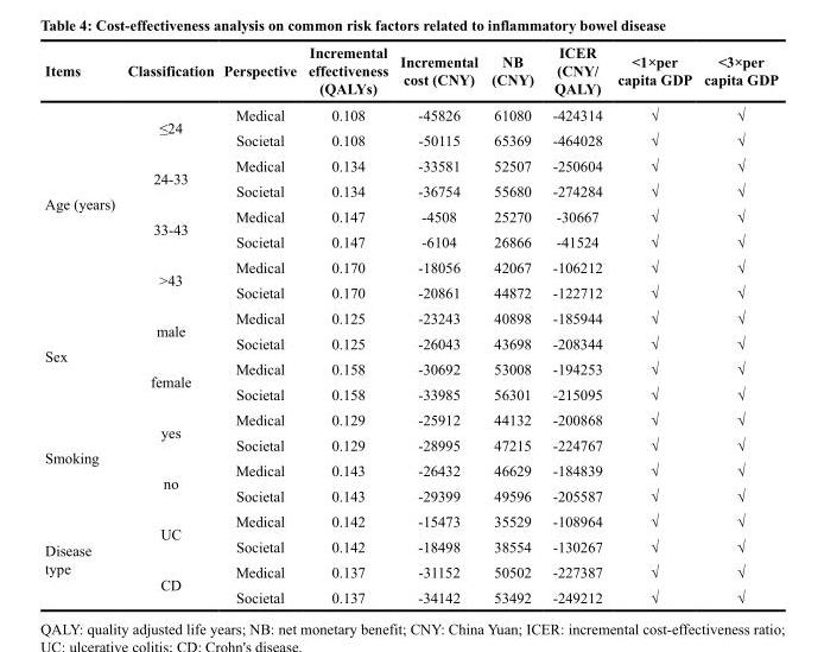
<table><thead><tr><td>Items</td><td>Classification</td><td>Perspective</td><td>Incremental effectiveness (QALYs)</td><td>Incremental cost (CNY)</td><td>NB (CNY)</td><td>ICER (CNY/ QALY)</td><td>&lt;1×per capita GDP</td><td>&lt;3×per capita GDP</td></tr></thead><tbody><tr><td rowspan="8">Age (years)</td><td rowspan="2">≤24</td><td>Medical</td><td>0.108</td><td>-45826</td><td>61080</td><td>-424314</td><td>√</td><td>√</td></tr><tr><td>Societal</td><td>0.108</td><td>-50115</td><td>65369</td><td>-464028</td><td>√</td><td>√</td></tr><tr><td rowspan="2">24-33</td><td>Medical</td><td>0.134</td><td>-33581</td><td>52507</td><td>-250604</td><td>√</td><td>√</td></tr><tr><td>Societal</td><td>0.134</td><td>-36754</td><td>55680</td><td>-274284</td><td>√</td><td>√</td></tr><tr><td rowspan="2">33-43</td><td>Medical</td><td>0.147</td><td>-4508</td><td>25270</td><td>-30667</td><td>√</td><td>√</td></tr><tr><td>Societal</td><td>0.147</td><td>-6104</td><td>26866</td><td>-41524</td><td>√</td><td>√</td></tr><tr><td rowspan="2">&gt;43</td><td>Medical</td><td>0.170</td><td>-18056</td><td>42067</td><td>-106212</td><td>√</td><td>√</td></tr><tr><td>Societal</td><td>0.170</td><td>-20861</td><td>44872</td><td>-122712</td><td>√</td><td>√</td></tr><tr><td rowspan="4">Sex</td><td rowspan="2">male</td><td>Medical</td><td>0.125</td><td>-23243</td><td>40898</td><td>-185944</td><td>√</td><td>√</td></tr><tr><td>Societal</td><td>0.125</td><td>-26043</td><td>43698</td><td>-208344</td><td>√</td><td>√</td></tr><tr><td rowspan="2">female</td><td>Medical</td><td>0.158</td><td>-30692</td><td>53008</td><td>-194253</td><td>√</td><td>√</td></tr><tr><td>Societal</td><td>0.158</td><td>-33985</td><td>56301</td><td>-215095</td><td>√</td><td>√</td></tr><tr><td rowspan="4">Smoking</td><td rowspan="2">yes</td><td>Medical</td><td>0.129</td><td>-25912</td><td>44132</td><td>-200868</td><td>√</td><td>√</td></tr><tr><td>Societal</td><td>0.129</td><td>-28995</td><td>47215</td><td>-224767</td><td>√</td><td>√</td></tr><tr><td rowspan="2">no</td><td>Medical</td><td>0.143</td><td>-26432</td><td>46629</td><td>-184839</td><td>√</td><td>√</td></tr><tr><td>Societal</td><td>0.143</td><td>-29399</td><td>49596</td><td>-205587</td><td>√</td><td>√</td></tr><tr><td rowspan="4">Disease type</td><td rowspan="2">UC</td><td>Medical</td><td>0.142</td><td>-15473</td><td>35529</td><td>-108964</td><td>√</td><td>√</td></tr><tr><td>Societal</td><td>0.142</td><td>-18498</td><td>38554</td><td>-130267</td><td>√</td><td>√</td></tr><tr><td rowspan="2">CD</td><td>Medical</td><td>0.137</td><td>-31152</td><td>50502</td><td>-227387</td><td>√</td><td>√</td></tr><tr><td>Societal</td><td>0.137</td><td>-34142</td><td>53492</td><td>-249212</td><td>√</td><td>√</td></tr></tbody></table>